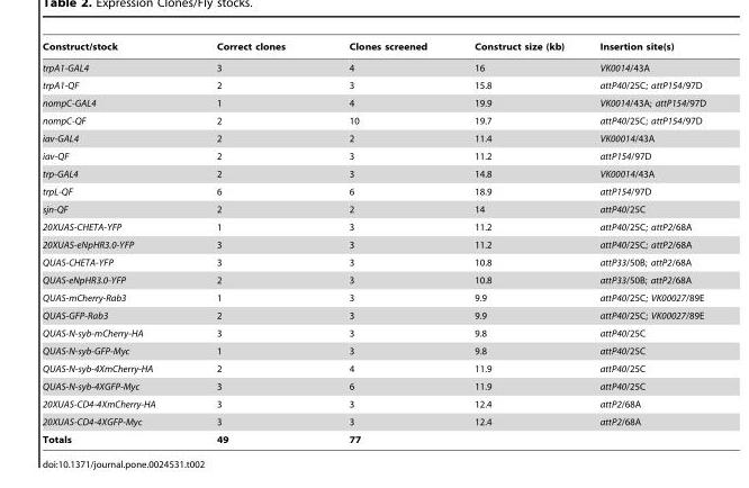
<table><thead><tr><td>Construct/stock</td><td>Correct clones</td><td>Clones screened</td><td>Construct size (kb)</td><td>Insertion site(s)</td></tr></thead><tbody><tr><td>trpA1-GAL4</td><td>3</td><td>4</td><td>16</td><td>VK0014/43A</td></tr><tr><td>trpA1-QF</td><td>2</td><td>3</td><td>15.8</td><td>attP40/25C; attP154/97D</td></tr><tr><td>nompC-GAL4</td><td>1</td><td>4</td><td>19.9</td><td>VK0014/43A; attP154/97D</td></tr><tr><td>nompC-QF</td><td>2</td><td>10</td><td>19.7</td><td>attP40/25C; attP154/97D</td></tr><tr><td>iav-GAL4</td><td>2</td><td>2</td><td>11.4</td><td>VK00014/43A</td></tr><tr><td>iav-QF</td><td>2</td><td>3</td><td>11.2</td><td>attP154/97D</td></tr><tr><td>trp-GAL4</td><td>2</td><td>3</td><td>14.8</td><td>VK00014/43A</td></tr><tr><td>trpL-QF</td><td>6</td><td>6</td><td>18.9</td><td>attP154/97D</td></tr><tr><td>sjn-QF</td><td>2</td><td>2</td><td>14</td><td>attP40/25C</td></tr><tr><td>20XUAS-CHETA-YFP</td><td>1</td><td>3</td><td>11.2</td><td>attP40/25C; attP2/68A</td></tr><tr><td>20XUAS-eNpHR3.0-YFP</td><td>3</td><td>3</td><td>11.2</td><td>attP40/25C; attP2/68A</td></tr><tr><td>QUAS-CHETA-YFP</td><td>3</td><td>3</td><td>10.8</td><td>attP33/50B; attP2/68A</td></tr><tr><td>QUAS-eNpHR3.0-YFP</td><td>2</td><td>3</td><td>10.8</td><td>attP33/50B; attP2/68A</td></tr><tr><td>QUAS-mCherry-Rab3</td><td>1</td><td>3</td><td>9.9</td><td>attP40/25C; VK00027/89E</td></tr><tr><td>QUAS-GFP-Rab3</td><td>2</td><td>3</td><td>9.9</td><td>attP40/25C; VK00027/89E</td></tr><tr><td>QUAS-N-syb-mCherry-HA</td><td>3</td><td>3</td><td>9.8</td><td>attP40/25C</td></tr><tr><td>QUAS-N-syb-GFP-Myc</td><td>1</td><td>3</td><td>9.8</td><td>attP40/25C</td></tr><tr><td>QUAS-N-syb-4XmCherry-HA</td><td>2</td><td>4</td><td>11.9</td><td>attP40/25C</td></tr><tr><td>QUAS-N-syb-4XGFP-Myc</td><td>3</td><td>6</td><td>11.9</td><td>attP40/25C</td></tr><tr><td>20XUAS-CD4-4XmCherry-HA</td><td>3</td><td>3</td><td>12.4</td><td>attP2/68A</td></tr><tr><td>20XUAS-CD4-4XGFP-Myc</td><td>3</td><td>3</td><td>12.4</td><td>attP2/68A</td></tr><tr><td>Totals</td><td>49</td><td>77</td><td></td><td></td></tr></tbody></table>